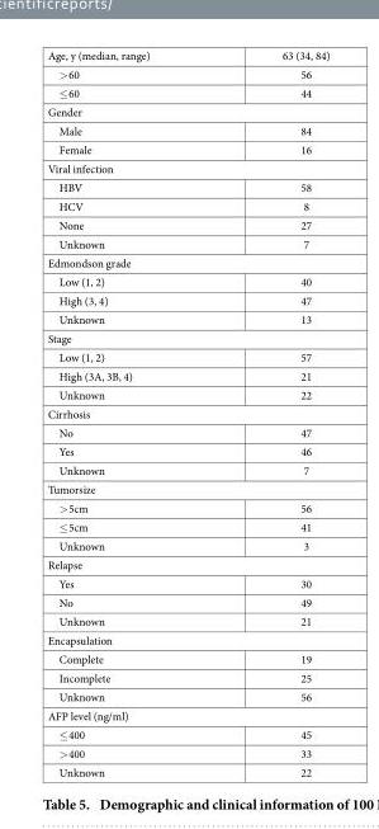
<table><tbody><tr><td>Age, y (median, range)</td><td>63 (34, 84)</td></tr><tr><td>&gt; 60</td><td>56</td></tr><tr><td>≤ 60</td><td>44</td></tr><tr><td colspan="2">Gender</td></tr><tr><td>Male</td><td>84</td></tr><tr><td>Female</td><td>16</td></tr><tr><td colspan="2">Viral infection</td></tr><tr><td>HBV</td><td>58</td></tr><tr><td>HCV</td><td>8</td></tr><tr><td>None</td><td>27</td></tr><tr><td>Unknown</td><td>7</td></tr><tr><td colspan="2">Edmondson grade</td></tr><tr><td>Low (1, 2)</td><td>40</td></tr><tr><td>High (3, 4)</td><td>47</td></tr><tr><td>Unknown</td><td>13</td></tr><tr><td colspan="2">Stage</td></tr><tr><td>Low (1, 2)</td><td>57</td></tr><tr><td>High (3A, 3B, 4)</td><td>21</td></tr><tr><td>Unknown</td><td>22</td></tr><tr><td colspan="2">Cirrhosis</td></tr><tr><td>No</td><td>47</td></tr><tr><td>Yes</td><td>46</td></tr><tr><td>Unknown</td><td>7</td></tr><tr><td colspan="2">Tumorsize</td></tr><tr><td>&gt; 5cm</td><td>56</td></tr><tr><td>≤ 5cm</td><td>41</td></tr><tr><td>Unknown</td><td>3</td></tr><tr><td colspan="2">Relapse</td></tr><tr><td>Yes</td><td>30</td></tr><tr><td>No</td><td>49</td></tr><tr><td>Unknown</td><td>21</td></tr><tr><td colspan="2">Encapsulation</td></tr><tr><td>Complete</td><td>19</td></tr><tr><td>Incomplete</td><td>25</td></tr><tr><td>Unknown</td><td>56</td></tr><tr><td colspan="2">AFP level (ng/ml)</td></tr><tr><td>≤ 400</td><td>45</td></tr><tr><td>&gt; 400</td><td>33</td></tr><tr><td>Unknown</td><td>22</td></tr></tbody></table>